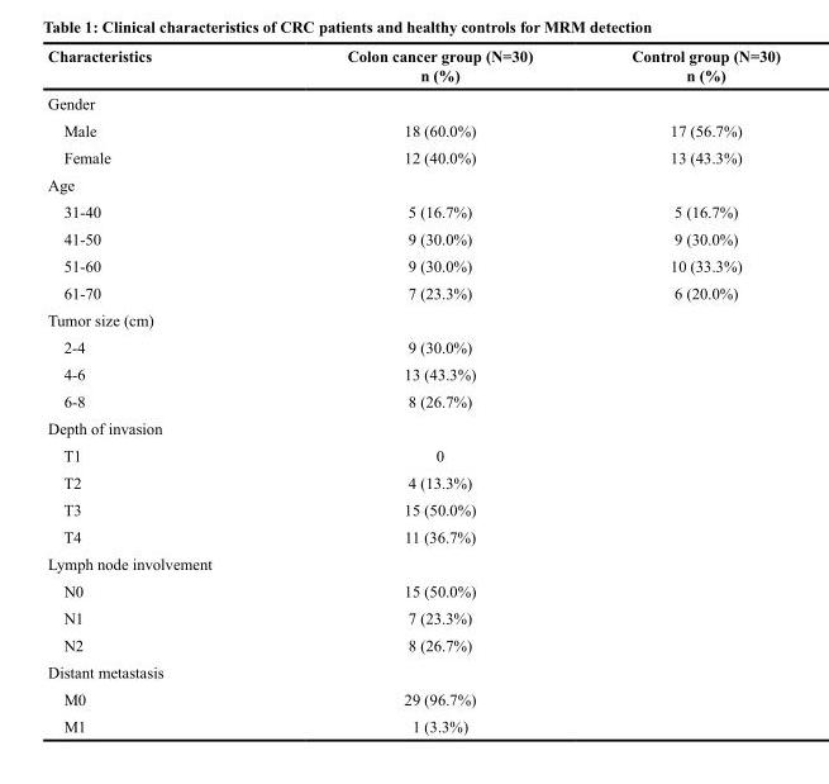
<table><thead><tr><td>Characteristics</td><td>Colon cancer group (N=30) n (%)</td><td>Control group (N=30) n (%)</td></tr></thead><tbody><tr><td colspan="3">Gender</td></tr><tr><td>Male</td><td>18 (60.0%)</td><td>17 (56.7%)</td></tr><tr><td>Female</td><td>12 (40.0%)</td><td>13 (43.3%)</td></tr><tr><td colspan="3">Age</td></tr><tr><td>31-40</td><td>5 (16.7%)</td><td>5 (16.7%)</td></tr><tr><td>41-50</td><td>9 (30.0%)</td><td>9 (30.0%)</td></tr><tr><td>51-60</td><td>9 (30.0%)</td><td>10 (33.3%)</td></tr><tr><td>61-70</td><td>7 (23.3%)</td><td>6 (20.0%)</td></tr><tr><td colspan="3">Tumor size (cm)</td></tr><tr><td>2-4</td><td>9 (30.0%)</td><td></td></tr><tr><td>4-6</td><td>13 (43.3%)</td><td></td></tr><tr><td>6-8</td><td>8 (26.7%)</td><td></td></tr><tr><td colspan="3">Depth of invasion</td></tr><tr><td>T1</td><td>0</td><td></td></tr><tr><td>T2</td><td>4 (13.3%)</td><td></td></tr><tr><td>T3</td><td>15 (50.0%)</td><td></td></tr><tr><td>T4</td><td>11 (36.7%)</td><td></td></tr><tr><td colspan="3">Lymph node involvement</td></tr><tr><td>N0</td><td>15 (50.0%)</td><td></td></tr><tr><td>N1</td><td>7 (23.3%)</td><td></td></tr><tr><td>N2</td><td>8 (26.7%)</td><td></td></tr><tr><td colspan="3">Distant metastasis</td></tr><tr><td>M0</td><td>29 (96.7%)</td><td></td></tr><tr><td>M1</td><td>1 (3.3%)</td><td></td></tr></tbody></table>